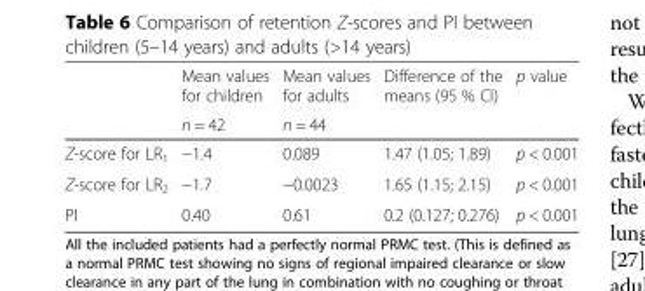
<table><thead><tr><td rowspan="2"></td><td rowspan="2">Mean values for children n = 42</td><td rowspan="2">Mean values for adults n = 44</td><td rowspan="2">Difference of the means (95 % CI)</td><td rowspan="2">p value</td></tr><tr></tr></thead><tbody><tr><td>Z-score for LR<sub>1</sub></td><td>−1.4</td><td>0.089</td><td>1.47 (1.05; 1.89)</td><td>p &lt; 0.001</td></tr><tr><td>Z-score for LR<sub>2</sub></td><td>−1.7</td><td>−0.0023</td><td>1.65 (1.15; 2.15)</td><td>p &lt; 0.001</td></tr><tr><td>PI</td><td>0.40</td><td>0.61</td><td>0.2 (0.127; 0.276)</td><td>p &lt; 0.001</td></tr></tbody></table>